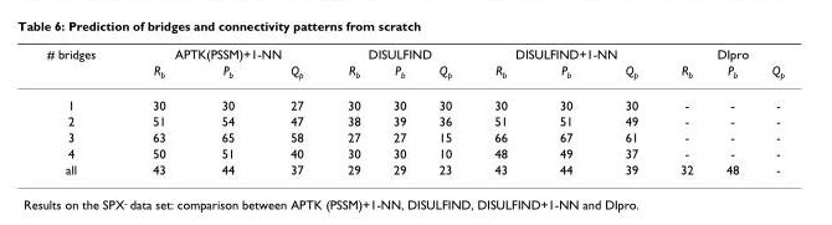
<table><thead><tr><td rowspan="2"># bridges</td><td colspan="3">APTK(PSSM)+1-NN</td><td colspan="3">DISULFIND</td><td colspan="3">DISULFIND+1-NN</td><td colspan="3">DIpro</td></tr><tr><td>R<sub>b</sub></td><td>P<sub>b</sub></td><td>Q<sub>p</sub></td><td>R<sub>b</sub></td><td>P<sub>b</sub></td><td>Q<sub>p</sub></td><td>R<sub>b</sub></td><td>P<sub>b</sub></td><td>Q<sub>p</sub></td><td>R<sub>b</sub></td><td>P<sub>b</sub></td><td>Q<sub>p</sub></td></tr></thead><tbody><tr><td>1</td><td>30</td><td>30</td><td>27</td><td>30</td><td>30</td><td>30</td><td>30</td><td>30</td><td>30</td><td>-</td><td>-</td><td>-</td></tr><tr><td>2</td><td>51</td><td>54</td><td>47</td><td>38</td><td>39</td><td>36</td><td>51</td><td>51</td><td>49</td><td>-</td><td>-</td><td>-</td></tr><tr><td>3</td><td>63</td><td>65</td><td>58</td><td>27</td><td>27</td><td>15</td><td>66</td><td>67</td><td>61</td><td>-</td><td>-</td><td>-</td></tr><tr><td>4</td><td>50</td><td>51</td><td>40</td><td>30</td><td>30</td><td>10</td><td>48</td><td>49</td><td>37</td><td>-</td><td>-</td><td>-</td></tr><tr><td>all</td><td>43</td><td>44</td><td>37</td><td>29</td><td>29</td><td>23</td><td>43</td><td>44</td><td>39</td><td>32</td><td>48</td><td>-</td></tr></tbody></table>